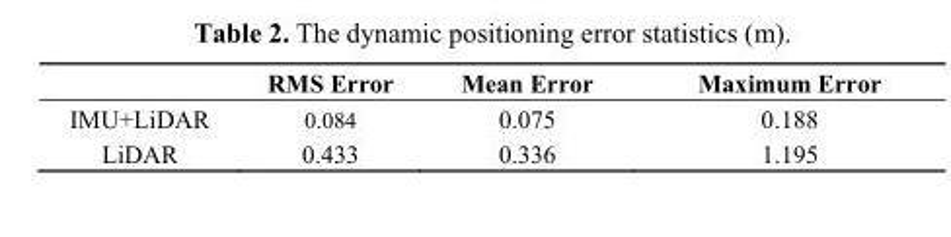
<table><thead><tr><td></td><td>RMS Error</td><td>Mean Error</td><td>Maximum Error</td></tr></thead><tbody><tr><td>IMU+LiDAR</td><td>0.084</td><td>0.075</td><td>0.188</td></tr><tr><td>LiDAR</td><td>0.433</td><td>0.336</td><td>1.195</td></tr></tbody></table>